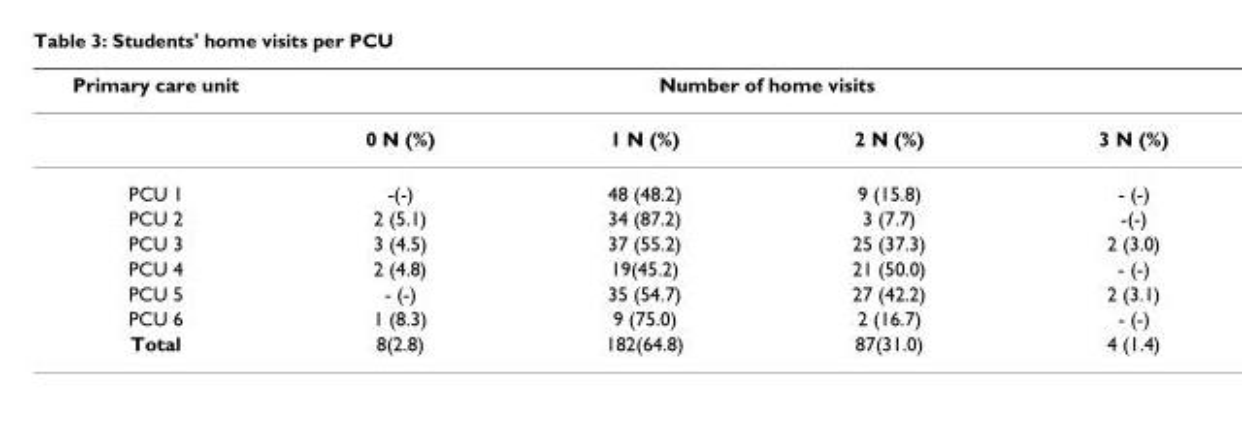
<table><thead><tr><td rowspan="2">Primary care unit</td><td colspan="4">Number of home visits</td></tr><tr><td>0 N (%)</td><td>1 N (%)</td><td>2 N (%)</td><td>3 N (%)</td></tr></thead><tbody><tr><td>PCU 1</td><td>-(-)</td><td>48 (48.2)</td><td>9 (15.8)</td><td>- (-)</td></tr><tr><td>PCU 2</td><td>2 (5.1)</td><td>34 (87.2)</td><td>3 (7.7)</td><td>-(-)</td></tr><tr><td>PCU 3</td><td>3 (4.5)</td><td>37 (55.2)</td><td>25 (37.3)</td><td>2 (3.0)</td></tr><tr><td>PCU 4</td><td>2 (4.8)</td><td>19(45.2)</td><td>21 (50.0)</td><td>- (-)</td></tr><tr><td>PCU 5</td><td>- (-)</td><td>35 (54.7)</td><td>27 (42.2)</td><td>2 (3.1)</td></tr><tr><td>PCU 6</td><td>1 (8.3)</td><td>9 (75.0)</td><td>2 (16.7)</td><td>- (-)</td></tr><tr><td>Total</td><td>8(2.8)</td><td>182(64.8)</td><td>87(31.0)</td><td>4 (1.4)</td></tr></tbody></table>